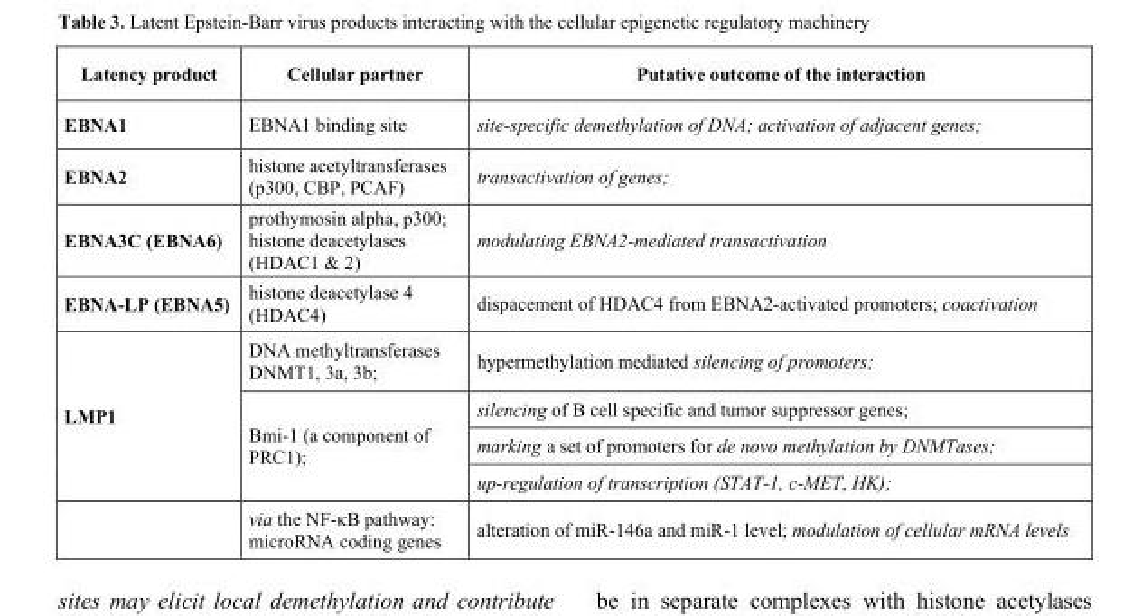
<table><thead><tr><td>Latency product</td><td>Cellular partner</td><td>Putative outcome of the interaction</td></tr></thead><tbody><tr><td>EBNA1</td><td>EBNA1 binding site</td><td>site-specific demethylation of DNA; activation of adjacent genes;</td></tr><tr><td>EBNA2</td><td>histone acetyltransferases (p300, CBP, PCAF)</td><td>transactivation of genes;</td></tr><tr><td>EBNA3C (EBNA6)</td><td>prothymosin alpha, p300; histone deacetylases (HDAC1 &amp; 2)</td><td>modulating EBNA2-mediated transactivation</td></tr><tr><td>EBNA-LP (EBNA5)</td><td>histone deacetylase 4 (HDAC4)</td><td>dispacement of HDAC4 from EBNA2-activated promoters; coactivation</td></tr><tr><td rowspan="5">LMP1</td><td>DNA methyltransferases DNMT1, 3a, 3b;</td><td>hypermethylation mediated silencing of promoters;</td></tr><tr><td rowspan="3">Bmi-1 (a component of PRC1);</td><td>silencing of B cell specific and tumor suppressor genes;</td></tr><tr><td>marking a set of promoters for de novo methylation by DNMTases;</td></tr><tr><td>up-regulation of transcription (STAT-1, c-MET, HK);</td></tr><tr><td>via the NF-κB pathway: microRNA coding genes</td><td>alteration of miR-146a and miR-1 level; modulation of cellular mRNA levels</td></tr></tbody></table>